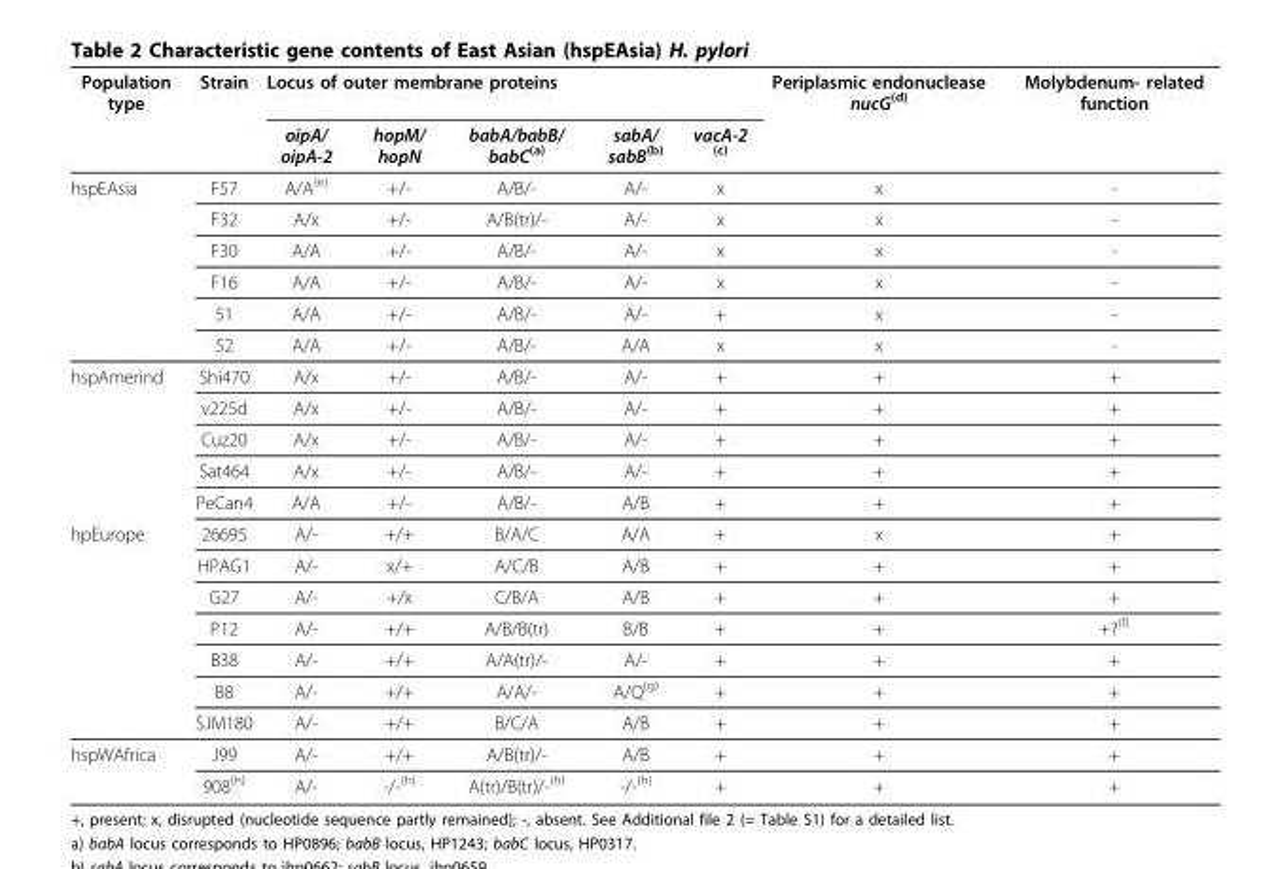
<table><thead><tr><td rowspan="2">Population type</td><td rowspan="2">Strain</td><td colspan="5">Locus of outer membrane proteins</td><td rowspan="2">Periplasmic endonuclease nucG<sup>(d)</sup></td><td rowspan="2">Molybdenum- related function</td></tr><tr><td>oipA/ oipA-2</td><td>hopM/ hopN</td><td>babA/babB/ babC<sup>(a)</sup></td><td>sabA/ sabB<sup>(b)</sup></td><td>vacA-2 <sup>(c)</sup></td></tr></thead><tbody><tr><td rowspan="6">hspEAsia</td><td>F57</td><td>A/A<sup>(e)</sup></td><td>+/-</td><td>A/B/-</td><td>A/-</td><td>x</td><td>x</td><td>-</td></tr><tr><td>F32</td><td>A/x</td><td>+/-</td><td>A/B(tr)/-</td><td>A/-</td><td>x</td><td>x</td><td>-</td></tr><tr><td>F30</td><td>A/A</td><td>+/-</td><td>A/B/-</td><td>A/-</td><td>x</td><td>x</td><td>-</td></tr><tr><td>F16</td><td>A/A</td><td>+/-</td><td>A/B/-</td><td>A/-</td><td>x</td><td>x</td><td>-</td></tr><tr><td>51</td><td>A/A</td><td>+/-</td><td>A/B/-</td><td>A/-</td><td>+</td><td>x</td><td>-</td></tr><tr><td>52</td><td>A/A</td><td>+/-</td><td>A/B/-</td><td>A/A</td><td>x</td><td>x</td><td>-</td></tr><tr><td rowspan="5">hspAmerind</td><td>Shi470</td><td>A/x</td><td>+/-</td><td>A/B/-</td><td>A/-</td><td>+</td><td>+</td><td>+</td></tr><tr><td>v225d</td><td>A/x</td><td>+/-</td><td>A/B/-</td><td>A/-</td><td>+</td><td>+</td><td>+</td></tr><tr><td>Cuz20</td><td>A/x</td><td>+/-</td><td>A/B/-</td><td>A/-</td><td>+</td><td>+</td><td>+</td></tr><tr><td>Sat464</td><td>A/x</td><td>+/-</td><td>A/B/-</td><td>A/-</td><td>+</td><td>+</td><td>+</td></tr><tr><td>PeCan4</td><td>A/A</td><td>+/-</td><td>A/B/-</td><td>A/B</td><td>+</td><td>+</td><td>+</td></tr><tr><td rowspan="7">hpEurope</td><td>26695</td><td>A/-</td><td>+/+</td><td>B/A/C</td><td>A/A</td><td>+</td><td>x</td><td>+</td></tr><tr><td>HPAG1</td><td>A/-</td><td>x/+</td><td>A/C/B</td><td>A/B</td><td>+</td><td>+</td><td>+</td></tr><tr><td>G27</td><td>A/-</td><td>+/x</td><td>C/B/A</td><td>A/B</td><td>+</td><td>+</td><td>+</td></tr><tr><td>P12</td><td>A/-</td><td>+/+</td><td>A/B/B(tr)</td><td>B/B</td><td>+</td><td>+</td><td>+?<sup>(f)</sup></td></tr><tr><td>B38</td><td>A/-</td><td>+/+</td><td>A/A(tr)/-</td><td>A/-</td><td>+</td><td>+</td><td>+</td></tr><tr><td>B8</td><td>A/-</td><td>+/+</td><td>A/A/-</td><td>A/Q<sup>(g)</sup></td><td>+</td><td>+</td><td>+</td></tr><tr><td>SJM180</td><td>A/-</td><td>+/+</td><td>B/C/A</td><td>A/B</td><td>+</td><td>+</td><td>+</td></tr><tr><td rowspan="2">hspWAfrica</td><td>J99</td><td>A/-</td><td>+/+</td><td>A/B(tr)/-</td><td>A/B</td><td>+</td><td>+</td><td>+</td></tr><tr><td>908<sup>(h)</sup></td><td>A/-</td><td>-/-<sup>(h)</sup></td><td>A(tr)/B(tr)/-<sup>(h)</sup></td><td>-/-<sup>(h)</sup></td><td>+</td><td>+</td><td>+</td></tr></tbody></table>